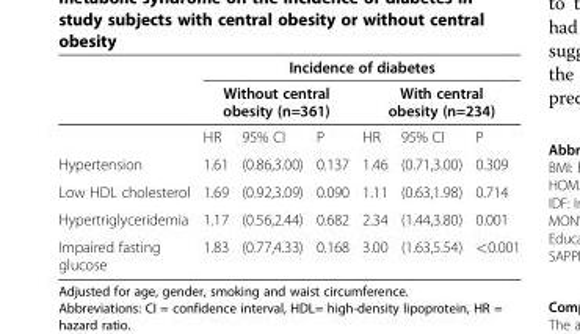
<table><thead><tr><td rowspan="3"></td><td colspan="6">Incidence of diabetes</td></tr><tr><td colspan="3">Without central obesity (n=361)</td><td colspan="3">With central obesity (n=234)</td></tr><tr><td>HR</td><td>95% CI</td><td>P</td><td>HR</td><td>95% CI</td><td>P</td></tr></thead><tbody><tr><td>Hypertension</td><td>1.61</td><td>(0.86,3.00)</td><td>0.137</td><td>1.46</td><td>(0.71,3.00)</td><td>0.309</td></tr><tr><td>Low HDL cholesterol</td><td>1.69</td><td>(0.92,3.09)</td><td>0.090</td><td>1.11</td><td>(0.63,1.98)</td><td>0.714</td></tr><tr><td>Hypertriglyceridemia</td><td>1.17</td><td>(0.56,2.44)</td><td>0.682</td><td>2.34</td><td>(1.44,3.80)</td><td>0.001</td></tr><tr><td>Impaired fasting glucose</td><td>1.83</td><td>(0.77,4.33)</td><td>0.168</td><td>3.00</td><td>(1.63,5.54)</td><td>&lt;0.001</td></tr></tbody></table>